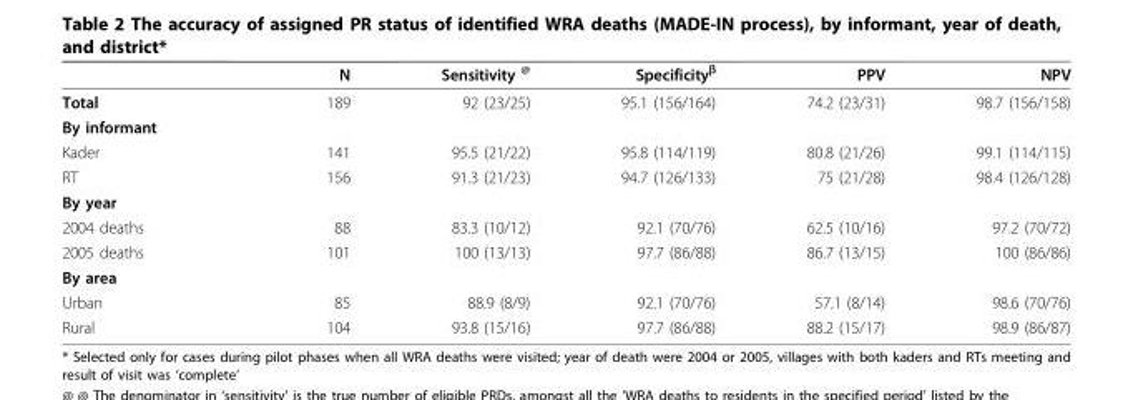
<table><thead><tr><td></td><td>N</td><td>Sensitivity <sup>@</sup></td><td>Specificity<sup>β</sup></td><td>PPV</td><td>NPV</td></tr></thead><tbody><tr><td>Total</td><td>189</td><td>92 (23/25)</td><td>95.1 (156/164)</td><td>74.2 (23/31)</td><td>98.7 (156/158)</td></tr><tr><td colspan="6">By informant</td></tr><tr><td>Kader</td><td>141</td><td>95.5 (21/22)</td><td>95.8 (114/119)</td><td>80.8 (21/26)</td><td>99.1 (114/115)</td></tr><tr><td>RT</td><td>156</td><td>91.3 (21/23)</td><td>94.7 (126/133)</td><td>75 (21/28)</td><td>98.4 (126/128)</td></tr><tr><td colspan="6">By year</td></tr><tr><td>2004 deaths</td><td>88</td><td>83.3 (10/12)</td><td>92.1 (70/76)</td><td>62.5 (10/16)</td><td>97.2 (70/72)</td></tr><tr><td>2005 deaths</td><td>101</td><td>100 (13/13)</td><td>97.7 (86/88)</td><td>86.7 (13/15)</td><td>100 (86/86)</td></tr><tr><td colspan="6">By area</td></tr><tr><td>Urban</td><td>85</td><td>88.9 (8/9)</td><td>92.1 (70/76)</td><td>57.1 (8/14)</td><td>98.6 (70/76)</td></tr><tr><td>Rural</td><td>104</td><td>93.8 (15/16)</td><td>97.7 (86/88)</td><td>88.2 (15/17)</td><td>98.9 (86/87)</td></tr></tbody></table>